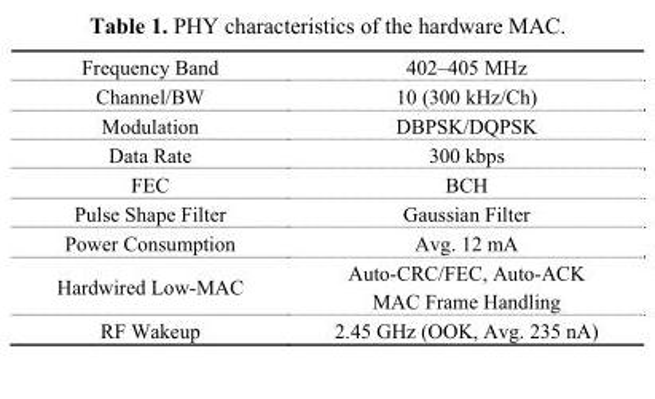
<table><tbody><tr><td>Frequency Band</td><td>402–405 MHz</td></tr><tr><td>Channel/BW</td><td>10 (300 kHz/Ch)</td></tr><tr><td>Modulation</td><td>DBPSK/DQPSK</td></tr><tr><td>Data Rate</td><td>300 kbps</td></tr><tr><td>FEC</td><td>BCH</td></tr><tr><td>Pulse Shape Filter</td><td>Gaussian Filter</td></tr><tr><td>Power Consumption</td><td>Avg. 12 mA</td></tr><tr><td>Hardwired Low-MAC</td><td>Auto-CRC/FEC, Auto-ACK MAC Frame Handling</td></tr><tr><td>RF Wakeup</td><td>2.45 GHz (OOK, Avg. 235 nA)</td></tr></tbody></table>